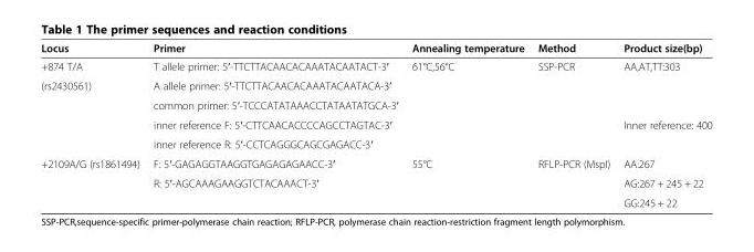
<table><thead><tr><td>Locus</td><td>Primer</td><td>Annealing temperature</td><td>Method</td><td>Product size(bp)</td></tr></thead><tbody><tr><td>+874 T/A</td><td>T allele primer: 5′-TTCTTACAACACAAATACAATACT-3′</td><td rowspan="5">61°C,56°C</td><td rowspan="5">SSP-PCR</td><td rowspan="3">AA,AT,TT:303</td></tr><tr><td rowspan="4">(rs2430561)</td><td>A allele primer: 5′-TTCTTACAACACAAATACAATACA-3′</td></tr><tr><td>common primer: 5′-TCCCATATAAACCTATAATATGCA-3′</td></tr><tr><td>inner reference F: 5′-CTTCAACACCCCAGCCTAGTAC-3′</td><td rowspan="2">Inner reference: 400</td></tr><tr><td>inner reference R: 5′-CCTCAGGGCAGCGAGACC-3′</td></tr><tr><td rowspan="3">+2109A/G (rs1861494)</td><td>F: 5′-GAGAGGTAAGGTGAGAGAGAACC-3′</td><td rowspan="3">55°C</td><td rowspan="3">RFLP-PCR (MspI)</td><td>AA:267</td></tr><tr><td rowspan="2">R: 5′-AGCAAAGAAGGTCTACAAACT-3′</td><td>AG:267 + 245 + 22</td></tr><tr><td>GG:245 + 22</td></tr></tbody></table>